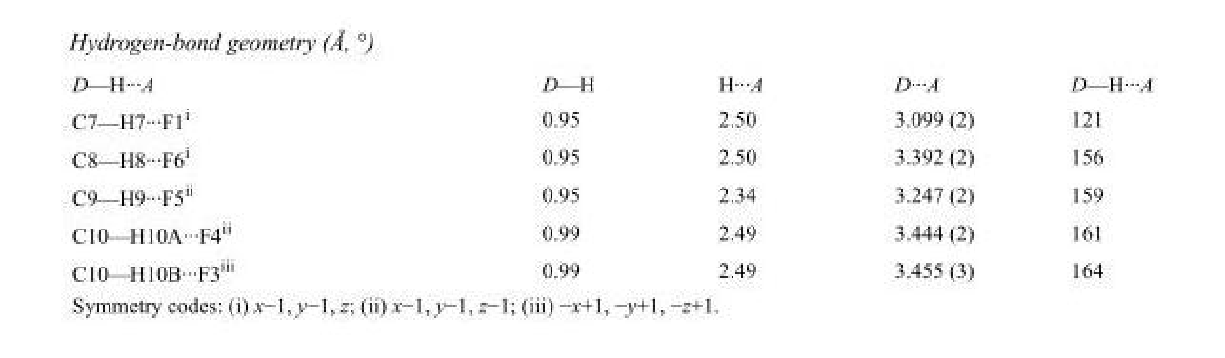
<table><tbody><tr><td>D—H···A</td><td>D—H</td><td>H···A</td><td>D···A</td><td>D—H···A</td></tr><tr><td>C7—H7···F1<sup>i</sup></td><td>0.95</td><td>2.50</td><td>3.099 (2)</td><td>121</td></tr><tr><td>C8—H8···F6<sup>i</sup></td><td>0.95</td><td>2.50</td><td>3.392 (2)</td><td>156</td></tr><tr><td>C9—H9···F5<sup>ii</sup></td><td>0.95</td><td>2.34</td><td>3.247 (2)</td><td>159</td></tr><tr><td>C10—H10A···F4<sup>ii</sup></td><td>0.99</td><td>2.49</td><td>3.444 (2)</td><td>161</td></tr><tr><td>C10—H10B···F3<sup>iii</sup></td><td>0.99</td><td>2.49</td><td>3.455 (3)</td><td>164</td></tr></tbody></table>